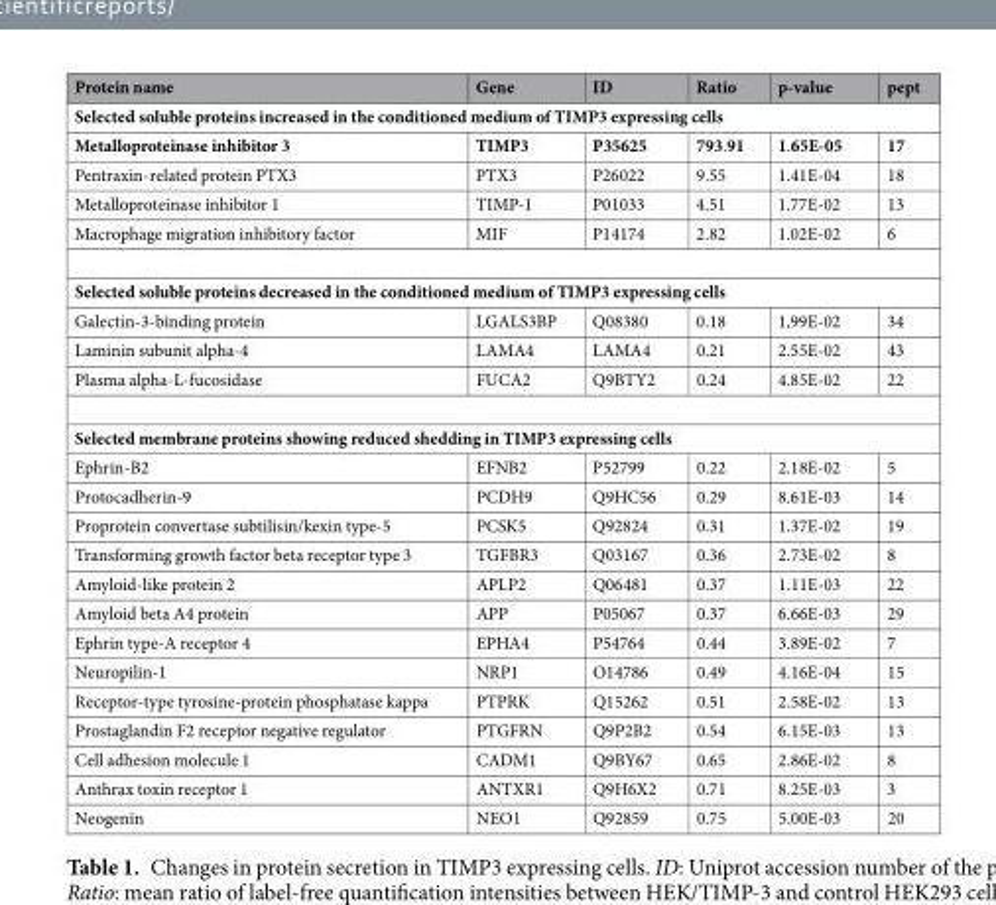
<table><thead><tr><td>Protein name</td><td>Gene</td><td>ID</td><td>Ratio</td><td>p-value</td><td>pept</td></tr></thead><tbody><tr><td colspan="6">Selected soluble proteins increased in the conditioned medium of TIMP3 expressing cells</td></tr><tr><td>Metalloproteinase inhibitor 3</td><td>TIMP3</td><td>P35625</td><td>793.91</td><td>1.65E-05</td><td>17</td></tr><tr><td>Pentraxin-related protein PTX3</td><td>PTX3</td><td>P26022</td><td>9.55</td><td>1.41E-04</td><td>18</td></tr><tr><td>Metalloproteinase inhibitor 1</td><td>TIMP-1</td><td>P01033</td><td>4.51</td><td>1.77E-02</td><td>13</td></tr><tr><td>Macrophage migration inhibitory factor</td><td>MIF</td><td>P14174</td><td>2.82</td><td>1.02E-02</td><td>6</td></tr><tr><td colspan="6">Selected soluble proteins decreased in the conditioned medium of TIMP3 expressing cells</td></tr><tr><td>Galectin-3-binding protein</td><td>LGALS3BP</td><td>Q08380</td><td>0.18</td><td>1,99E-02</td><td>34</td></tr><tr><td>Laminin subunit alpha-4</td><td>LAMA4</td><td>LAMA4</td><td>0.21</td><td>2.55E-02</td><td>43</td></tr><tr><td>Plasma alpha-L-fucosidase</td><td>FUCA2</td><td>Q9BTY2</td><td>0.24</td><td>4.85E-02</td><td>22</td></tr><tr><td colspan="6">Selected membrane proteins showing reduced shedding in TIMP3 expressing cells</td></tr><tr><td>Ephrin-B2</td><td>EFNB2</td><td>P52799</td><td>0.22</td><td>2.18E-02</td><td>5</td></tr><tr><td>Protocadherin-9</td><td>PCDH9</td><td>Q9HC56</td><td>0.29</td><td>8.61E-03</td><td>14</td></tr><tr><td>Proprotein convertase subtilisin/kexin type-5</td><td>PCSK5</td><td>Q92824</td><td>0.31</td><td>1.37E-02</td><td>19</td></tr><tr><td>Transforming growth factor beta receptor type 3</td><td>TGFBR3</td><td>Q03167</td><td>0.36</td><td>2.73E-02</td><td>8</td></tr><tr><td>Amyloid-like protein 2</td><td>APLP2</td><td>Q06481</td><td>0.37</td><td>1.11E-03</td><td>22</td></tr><tr><td>Amyloid beta A4 protein</td><td>APP</td><td>P05067</td><td>0.37</td><td>6.66E-03</td><td>29</td></tr><tr><td>Ephrin type-A receptor 4</td><td>EPHA4</td><td>P54764</td><td>0.44</td><td>3.89E-02</td><td>7</td></tr><tr><td>Neuropilin-1</td><td>NRP1</td><td>O14786</td><td>0.49</td><td>4.16E-04</td><td>15</td></tr><tr><td>Receptor-type tyrosine-protein phosphatase kappa</td><td>PTPRK</td><td>Q15262</td><td>0.51</td><td>2.58E-02</td><td>13</td></tr><tr><td>Prostaglandin F2 receptor negative regulator</td><td>PTGFRN</td><td>Q9P2B2</td><td>0.54</td><td>6.15E-03</td><td>13</td></tr><tr><td>Cell adhesion molecule 1</td><td>CADM1</td><td>Q9BY67</td><td>0.65</td><td>2.86E-02</td><td>8</td></tr><tr><td>Anthrax toxin receptor 1</td><td>ANTXR1</td><td>Q9H6X2</td><td>0.71</td><td>8.25E-03</td><td>3</td></tr><tr><td>Neogenin</td><td>NEO1</td><td>Q92859</td><td>0.75</td><td>5.00E-03</td><td>20</td></tr></tbody></table>